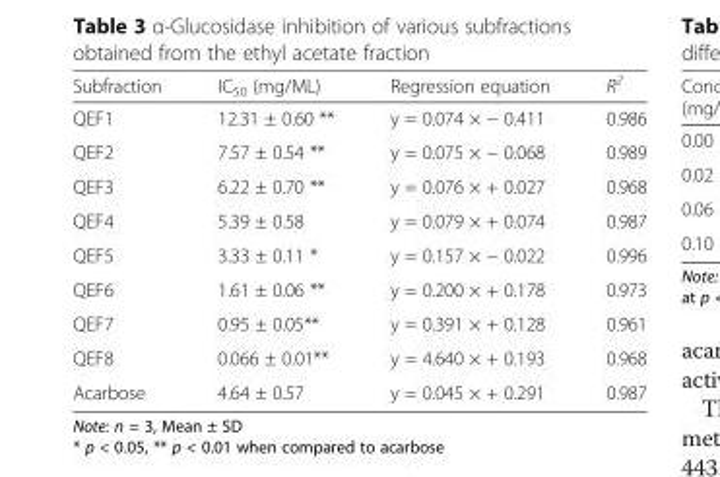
<table><thead><tr><td>Subfraction</td><td>IC<sub>50</sub> (mg/ML)</td><td>Regression equation</td><td>R<sup>2</sup></td></tr></thead><tbody><tr><td>QEF1</td><td>12.31 ± 0.60 **</td><td>y = 0.074 × − 0.411</td><td>0.986</td></tr><tr><td>QEF2</td><td>7.57 ± 0.54 **</td><td>y = 0.075 × − 0.068</td><td>0.989</td></tr><tr><td>QEF3</td><td>6.22 ± 0.70 **</td><td>y = 0.076 × + 0.027</td><td>0.968</td></tr><tr><td>QEF4</td><td>5.39 ± 0.58</td><td>y = 0.079 × + 0.074</td><td>0.987</td></tr><tr><td>QEF5</td><td>3.33 ± 0.11 *</td><td>y = 0.157 × − 0.022</td><td>0.996</td></tr><tr><td>QEF6</td><td>1.61 ± 0.06 **</td><td>y = 0.200 × + 0.178</td><td>0.973</td></tr><tr><td>QEF7</td><td>0.95 ± 0.05**</td><td>y = 0.391 × + 0.128</td><td>0.961</td></tr><tr><td>QEF8</td><td>0.066 ± 0.01**</td><td>y = 4.640 × + 0.193</td><td>0.968</td></tr><tr><td>Acarbose</td><td>4.64 ± 0.57</td><td>y = 0.045 × + 0.291</td><td>0.987</td></tr></tbody></table>